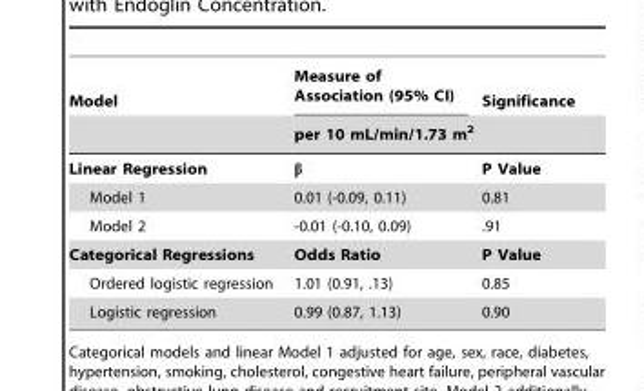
<table><thead><tr><td rowspan="2">Model</td><td rowspan="2">Measure of Association (95% CI) per 10 mL/min/1.73 m<sup>2</sup></td><td rowspan="2">Significance</td></tr><tr></tr></thead><tbody><tr><td>Linear Regression</td><td>β</td><td>P Value</td></tr><tr><td>Model 1</td><td>0.01 (-0.09, 0.11)</td><td>0.81</td></tr><tr><td>Model 2</td><td>-0.01 (-0.10, 0.09)</td><td>.91</td></tr><tr><td>Categorical Regressions</td><td>Odds Ratio</td><td>P Value</td></tr><tr><td>Ordered logistic regression</td><td>1.01 (0.91, .13)</td><td>0.85</td></tr><tr><td>Logistic regression</td><td>0.99 (0.87, 1.13)</td><td>0.90</td></tr></tbody></table>